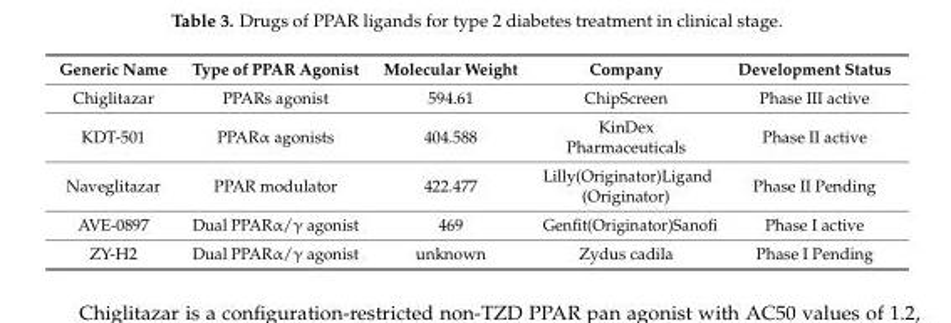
<table><thead><tr><td>Generic Name</td><td>Type of PPAR Agonist</td><td>Molecular Weight</td><td>Company</td><td>Development Status</td></tr></thead><tbody><tr><td>Chiglitazar</td><td>PPARs agonist</td><td>594.61</td><td>ChipScreen</td><td>Phase III active</td></tr><tr><td>KDT-501</td><td>PPARα agonists</td><td>404.588</td><td>KinDex Pharmaceuticals</td><td>Phase II active</td></tr><tr><td>Naveglitazar</td><td>PPAR modulator</td><td>422.477</td><td>Lilly(Originator)Ligand (Originator)</td><td>Phase II Pending</td></tr><tr><td>AVE-0897</td><td>Dual PPARα/γ agonist</td><td>469</td><td>Genfit(Originator)Sanofi</td><td>Phase I active</td></tr><tr><td>ZY-H2</td><td>Dual PPARα/γ agonist</td><td>unknown</td><td>Zydus cadila</td><td>Phase I Pending</td></tr></tbody></table>